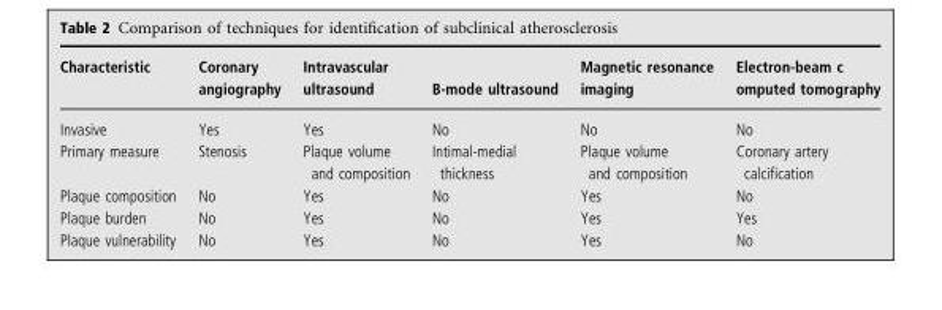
<table><thead><tr><td>Characteristic</td><td>Coronary angiography</td><td>Intravascular ultrasound</td><td>B-mode ultrasound</td><td>Magnetic resonance imaging</td><td>Electron-beam c omputed tomography</td></tr></thead><tbody><tr><td>Invasive</td><td>Yes</td><td>Yes</td><td>No</td><td>No</td><td>No</td></tr><tr><td>Primary measure</td><td>Stenosis</td><td>Plaque volume and composition</td><td>Intimal-medial thickness</td><td>Plaque volume and composition</td><td>Coronary artery calcification</td></tr><tr><td>Plaque composition</td><td>No</td><td>Yes</td><td>No</td><td>Yes</td><td>No</td></tr><tr><td>Plaque burden</td><td>No</td><td>Yes</td><td>No</td><td>Yes</td><td>Yes</td></tr><tr><td>Plaque vulnerability</td><td>No</td><td>Yes</td><td>No</td><td>Yes</td><td>No</td></tr></tbody></table>